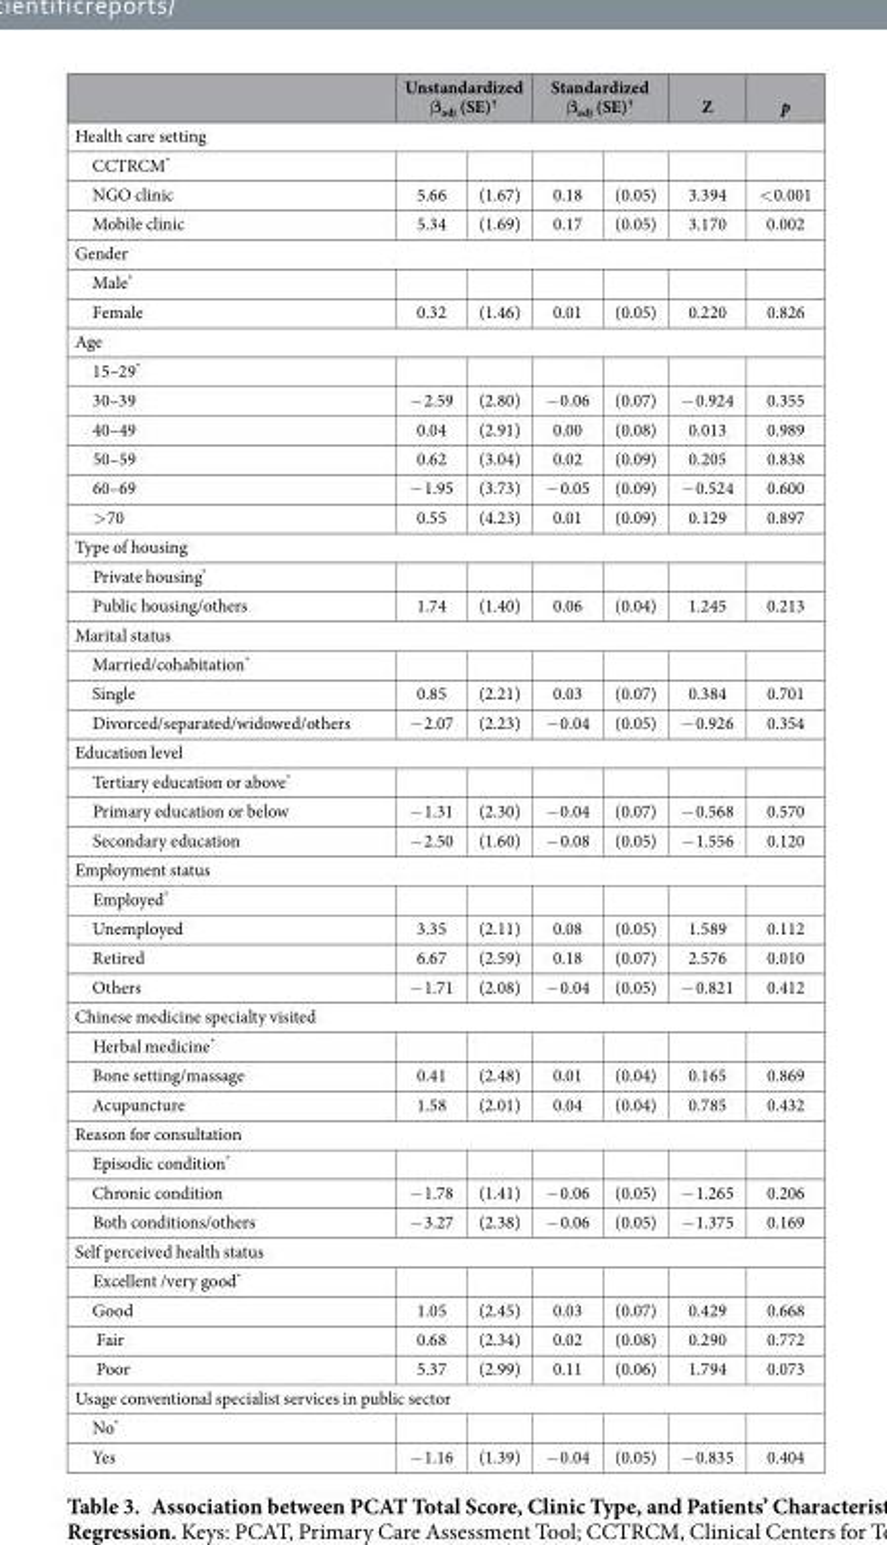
<table><thead><tr><td></td><td colspan="2">Unstandardized β<sub>adj</sub> (SE)<sup>†</sup></td><td colspan="2">Standardized β<sub>adj</sub> (SE)<sup>†</sup></td><td>Z</td><td>p</td></tr><tr><td colspan="7">Health care setting</td></tr><tr><td>CCTRCM*</td><td></td><td></td><td></td><td></td><td></td><td></td></tr></thead><tbody><tr><td>NGO clinic</td><td>5.66</td><td>(1.67)</td><td>0.18</td><td>(0.05)</td><td>3.394</td><td>&lt; 0.001</td></tr><tr><td>Mobile clinic</td><td>5.34</td><td>(1.69)</td><td>0.17</td><td>(0.05)</td><td>3.170</td><td>0.002</td></tr><tr><td colspan="7">Gender</td></tr><tr><td colspan="7">Male*</td></tr><tr><td>Female</td><td>0.32</td><td>(1.46)</td><td>0.01</td><td>(0.05)</td><td>0.220</td><td>0.826</td></tr><tr><td colspan="7">Age</td></tr><tr><td colspan="7">15–29*</td></tr><tr><td>30–39</td><td>− 2.59</td><td>(2.80)</td><td>− 0.06</td><td>(0.07)</td><td>− 0.924</td><td>0.355</td></tr><tr><td>40–49</td><td>0.04</td><td>(2.91)</td><td>0.00</td><td>(0.08)</td><td>0.013</td><td>0.989</td></tr><tr><td>50–59</td><td>0.62</td><td>(3.04)</td><td>0.02</td><td>(0.09)</td><td>0.205</td><td>0.838</td></tr><tr><td>60–69</td><td>− 1.95</td><td>(3.73)</td><td>− 0.05</td><td>(0.09)</td><td>− 0.524</td><td>0.600</td></tr><tr><td>&gt; 70</td><td>0.55</td><td>(4.23)</td><td>0.01</td><td>(0.09)</td><td>0.129</td><td>0.897</td></tr><tr><td colspan="7">Type of housing</td></tr><tr><td colspan="7">Private housing*</td></tr><tr><td>Public housing/others</td><td>1.74</td><td>(1.40)</td><td>0.06</td><td>(0.04)</td><td>1.245</td><td>0.213</td></tr><tr><td colspan="7">Marital status</td></tr><tr><td colspan="7">Married/cohabitation*</td></tr><tr><td>Single</td><td>0.85</td><td>(2.21)</td><td>0.03</td><td>(0.07)</td><td>0.384</td><td>0.701</td></tr><tr><td>Divorced/separated/widowed/others</td><td>− 2.07</td><td>(2.23)</td><td>− 0.04</td><td>(0.05)</td><td>− 0.926</td><td>0.354</td></tr><tr><td colspan="7">Education level</td></tr><tr><td colspan="7">Tertiary education or above*</td></tr><tr><td>Primary education or below</td><td>− 1.31</td><td>(2.30)</td><td>− 0.04</td><td>(0.07)</td><td>− 0.568</td><td>0.570</td></tr><tr><td>Secondary education</td><td>− 2.50</td><td>(1.60)</td><td>− 0.08</td><td>(0.05)</td><td>− 1.556</td><td>0.120</td></tr><tr><td colspan="7">Employment status</td></tr><tr><td colspan="7">Employed*</td></tr><tr><td>Unemployed</td><td>3.35</td><td>(2.11)</td><td>0.08</td><td>(0.05)</td><td>1.589</td><td>0.112</td></tr><tr><td>Retired</td><td>6.67</td><td>(2.59)</td><td>0.18</td><td>(0.07)</td><td>2.576</td><td>0.010</td></tr><tr><td>Others</td><td>− 1.71</td><td>(2.08)</td><td>− 0.04</td><td>(0.05)</td><td>− 0.821</td><td>0.412</td></tr><tr><td colspan="7">Chinese medicine specialty visited</td></tr><tr><td colspan="7">Herbal medicine*</td></tr><tr><td>Bone setting/massage</td><td>0.41</td><td>(2.48)</td><td>0.01</td><td>(0.04)</td><td>0.165</td><td>0.869</td></tr><tr><td>Acupuncture</td><td>1.58</td><td>(2.01)</td><td>0.04</td><td>(0.04)</td><td>0.785</td><td>0.432</td></tr><tr><td colspan="7">Reason for consultation</td></tr><tr><td colspan="7">Episodic condition*</td></tr><tr><td>Chronic condition</td><td>− 1.78</td><td>(1.41)</td><td>− 0.06</td><td>(0.05)</td><td>− 1.265</td><td>0.206</td></tr><tr><td>Both conditions/others</td><td>− 3.27</td><td>(2.38)</td><td>− 0.06</td><td>(0.05)</td><td>− 1.375</td><td>0.169</td></tr><tr><td colspan="7">Self perceived health status</td></tr><tr><td colspan="7">Excellent /very good*</td></tr><tr><td>Good</td><td>1.05</td><td>(2.45)</td><td>0.03</td><td>(0.07)</td><td>0.429</td><td>0.668</td></tr><tr><td>Fair</td><td>0.68</td><td>(2.34)</td><td>0.02</td><td>(0.08)</td><td>0.290</td><td>0.772</td></tr><tr><td>Poor</td><td>5.37</td><td>(2.99)</td><td>0.11</td><td>(0.06)</td><td>1.794</td><td>0.073</td></tr><tr><td colspan="7">Usage conventional specialist services in public sector</td></tr><tr><td colspan="7">No*</td></tr><tr><td>Yes</td><td>− 1.16</td><td>(1.39)</td><td>− 0.04</td><td>(0.05)</td><td>− 0.835</td><td>0.404</td></tr></tbody></table>